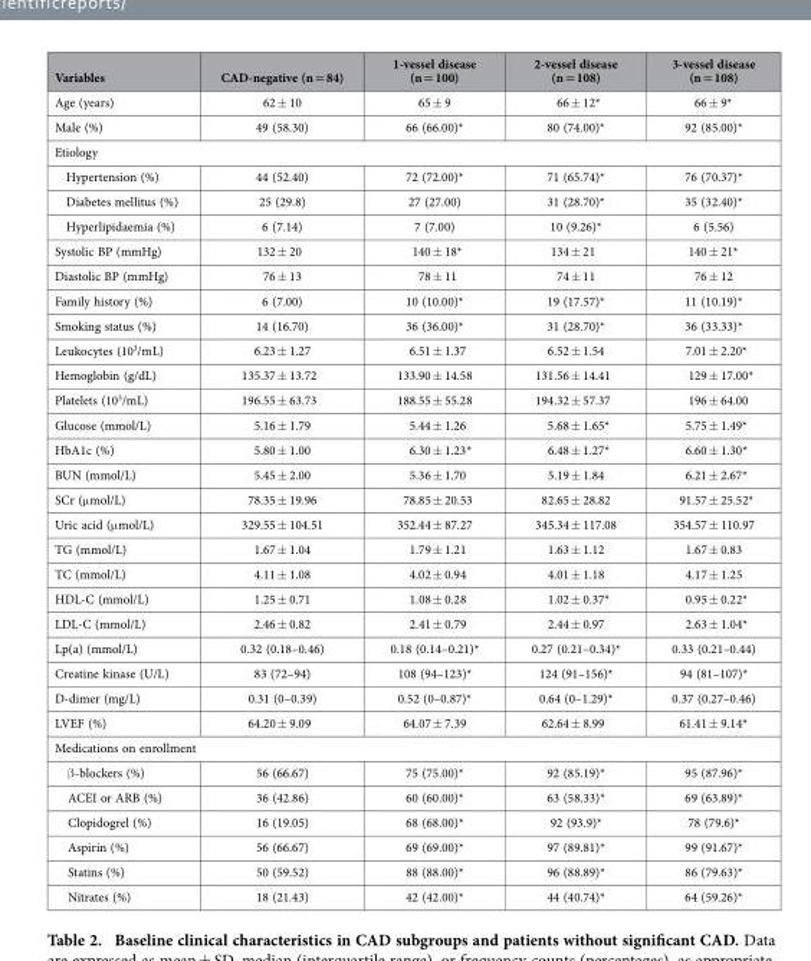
<table><thead><tr><td>Variables</td><td>CAD-negative (n = 84)</td><td>1-vessel disease (n = 100)</td><td>2-vessel disease (n = 108)</td><td>3-vessel disease (n = 108)</td></tr></thead><tbody><tr><td>Age (years)</td><td>62 ± 10</td><td>65 ± 9</td><td>66 ± 12*</td><td>66 ± 9*</td></tr><tr><td>Male (%)</td><td>49 (58.30)</td><td>66 (66.00)*</td><td>80 (74.00)*</td><td>92 (85.00)*</td></tr><tr><td colspan="5">Etiology</td></tr><tr><td>Hypertension (%)</td><td>44 (52.40)</td><td>72 (72.00)*</td><td>71 (65.74)*</td><td>76 (70.37)*</td></tr><tr><td>Diabetes mellitus (%)</td><td>25 (29.8)</td><td>27 (27.00)</td><td>31 (28.70)*</td><td>35 (32.40)*</td></tr><tr><td>Hyperlipidaemia (%)</td><td>6 (7.14)</td><td>7 (7.00)</td><td>10 (9.26)*</td><td>6 (5.56)</td></tr><tr><td>Systolic BP (mmHg)</td><td>132 ± 20</td><td>140 ± 18*</td><td>134 ± 21</td><td>140 ± 21*</td></tr><tr><td>Diastolic BP (mmHg)</td><td>76 ± 13</td><td>78 ± 11</td><td>74 ± 11</td><td>76 ± 12</td></tr><tr><td>Family history (%)</td><td>6 (7.00)</td><td>10 (10.00)*</td><td>19 (17.57)*</td><td>11 (10.19)*</td></tr><tr><td>Smoking status (%)</td><td>14 (16.70)</td><td>36 (36.00)*</td><td>31 (28.70)*</td><td>36 (33.33)*</td></tr><tr><td>Leukocytes (10<sup>3</sup>/mL)</td><td>6.23 ± 1.27</td><td>6.51 ± 1.37</td><td>6.52 ± 1.54</td><td>7.01 ± 2.20*</td></tr><tr><td>Hemoglobin (g/dL)</td><td>135.37 ± 13.72</td><td>133.90 ± 14.58</td><td>131.56 ± 14.41</td><td>129 ± 17.00*</td></tr><tr><td>Platelets (10<sup>3</sup>/mL)</td><td>196.55 ± 63.73</td><td>188.55 ± 55.28</td><td>194.32 ± 57.37</td><td>196 ± 64.00</td></tr><tr><td>Glucose (mmol/L)</td><td>5.16 ± 1.79</td><td>5.44 ± 1.26</td><td>5.68 ± 1.65*</td><td>5.75 ± 1.49*</td></tr><tr><td>HbA1c (%)</td><td>5.80 ± 1.00</td><td>6.30 ± 1.23*</td><td>6.48 ± 1.27*</td><td>6.60 ± 1.30*</td></tr><tr><td>BUN (mmol/L)</td><td>5.45 ± 2.00</td><td>5.36 ± 1.70</td><td>5.19 ± 1.84</td><td>6.21 ± 2.67*</td></tr><tr><td>SCr (μ mol/L)</td><td>78.35 ± 19.96</td><td>78.85 ± 20.53</td><td>82.65 ± 28.82</td><td>91.57 ± 25.52*</td></tr><tr><td>Uric acid (μ mol/L)</td><td>329.55 ± 104.51</td><td>352.44 ± 87.27</td><td>345.34 ± 117.08</td><td>354.57 ± 110.97</td></tr><tr><td>TG (mmol/L)</td><td>1.67 ± 1.04</td><td>1.79 ± 1.21</td><td>1.63 ± 1.12</td><td>1.67 ± 0.83</td></tr><tr><td>TC (mmol/L)</td><td>4.11 ± 1.08</td><td>4.02 ± 0.94</td><td>4.01 ± 1.18</td><td>4.17 ± 1.25</td></tr><tr><td>HDL-C (mmol/L)</td><td>1.25 ± 0.71</td><td>1.08 ± 0.28</td><td>1.02 ± 0.37*</td><td>0.95 ± 0.22*</td></tr><tr><td>LDL-C (mmol/L)</td><td>2.46 ± 0.82</td><td>2.41 ± 0.79</td><td>2.44 ± 0.97</td><td>2.63 ± 1.04*</td></tr><tr><td>Lp(a) (mmol/L)</td><td>0.32 (0.18–0.46)</td><td>0.18 (0.14–0.21)*</td><td>0.27 (0.21–0.34)*</td><td>0.33 (0.21–0.44)</td></tr><tr><td>Creatine kinase (U/L)</td><td>83 (72–94)</td><td>108 (94–123)*</td><td>124 (91–156)*</td><td>94 (81–107)*</td></tr><tr><td>D-dimer (mg/L)</td><td>0.31 (0–0.39)</td><td>0.52 (0–0.87)*</td><td>0.64 (0–1.29)*</td><td>0.37 (0.27–0.46)</td></tr><tr><td>LVEF (%)</td><td>64.20 ± 9.09</td><td>64.07 ± 7.39</td><td>62.64 ± 8.99</td><td>61.41 ± 9.14*</td></tr><tr><td colspan="5">Medications on enrollment</td></tr><tr><td>β -blockers (%)</td><td>56 (66.67)</td><td>75 (75.00)*</td><td>92 (85.19)*</td><td>95 (87.96)*</td></tr><tr><td>ACEI or ARB (%)</td><td>36 (42.86)</td><td>60 (60.00)*</td><td>63 (58.33)*</td><td>69 (63.89)*</td></tr><tr><td>Clopidogrel (%)</td><td>16 (19.05)</td><td>68 (68.00)*</td><td>92 (93.9)*</td><td>78 (79.6)*</td></tr><tr><td>Aspirin (%)</td><td>56 (66.67)</td><td>69 (69.00)*</td><td>97 (89.81)*</td><td>99 (91.67)*</td></tr><tr><td>Statins (%)</td><td>50 (59.52)</td><td>88 (88.00)*</td><td>96 (88.89)*</td><td>86 (79.63)*</td></tr><tr><td>Nitrates (%)</td><td>18 (21.43)</td><td>42 (42.00)*</td><td>44 (40.74)*</td><td>64 (59.26)*</td></tr></tbody></table>